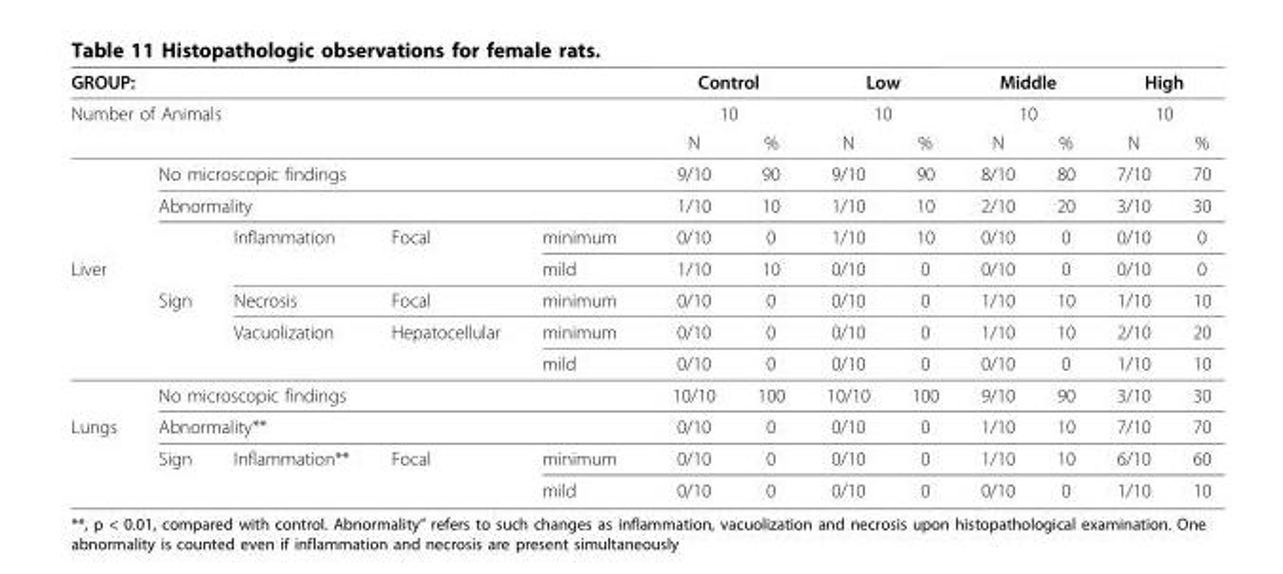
<table><thead><tr><td rowspan="2" colspan="5">GROUP: Number of Animals</td><td rowspan="2" colspan="2">Control 10</td><td rowspan="2" colspan="2">Low 10</td><td rowspan="2" colspan="2">Middle 10</td><td rowspan="2" colspan="2">High 10</td></tr><tr></tr><tr><td></td><td></td><td></td><td></td><td></td><td>N</td><td>%</td><td>N</td><td>%</td><td>N</td><td>%</td><td>N</td><td>%</td></tr></thead><tbody><tr><td></td><td colspan="4">No microscopic findings</td><td>9/10</td><td>90</td><td>9/10</td><td>90</td><td>8/10</td><td>80</td><td>7/10</td><td>70</td></tr><tr><td></td><td colspan="4">Abnormality</td><td>1/10</td><td>10</td><td>1/10</td><td>10</td><td>2/10</td><td>20</td><td>3/10</td><td>30</td></tr><tr><td></td><td></td><td>Inflammation</td><td>Focal</td><td>minimum</td><td>0/10</td><td>0</td><td>1/10</td><td>10</td><td>0/10</td><td>0</td><td>0/10</td><td>0</td></tr><tr><td rowspan="5">Liver</td><td></td><td></td><td></td><td>mild</td><td>1/10</td><td>10</td><td>0/10</td><td>0</td><td>0/10</td><td>0</td><td>0/10</td><td>0</td></tr><tr><td>Sign</td><td>Necrosis</td><td>Focal</td><td>minimum</td><td>0/10</td><td>0</td><td>0/10</td><td>0</td><td>1/10</td><td>10</td><td>1/10</td><td>10</td></tr><tr><td></td><td>Vacuolization</td><td>Hepatocellular</td><td>minimum</td><td>0/10</td><td>0</td><td>0/10</td><td>0</td><td>1/10</td><td>10</td><td>2/10</td><td>20</td></tr><tr><td></td><td></td><td></td><td>mild</td><td>0/10</td><td>0</td><td>0/10</td><td>0</td><td>0/10</td><td>0</td><td>1/10</td><td>10</td></tr><tr><td colspan="4">No microscopic findings</td><td>10/10</td><td>100</td><td>10/10</td><td>100</td><td>9/10</td><td>90</td><td>3/10</td><td>30</td></tr><tr><td rowspan="3">Lungs</td><td colspan="4">Abnormality**</td><td>0/10</td><td>0</td><td>0/10</td><td>0</td><td>1/10</td><td>10</td><td>7/10</td><td>70</td></tr><tr><td>Sign</td><td>Inflammation**</td><td>Focal</td><td>minimum</td><td>0/10</td><td>0</td><td>0/10</td><td>0</td><td>1/10</td><td>10</td><td>6/10</td><td>60</td></tr><tr><td></td><td></td><td></td><td>mild</td><td>0/10</td><td>0</td><td>0/10</td><td>0</td><td>0/10</td><td>0</td><td>1/10</td><td>10</td></tr></tbody></table>